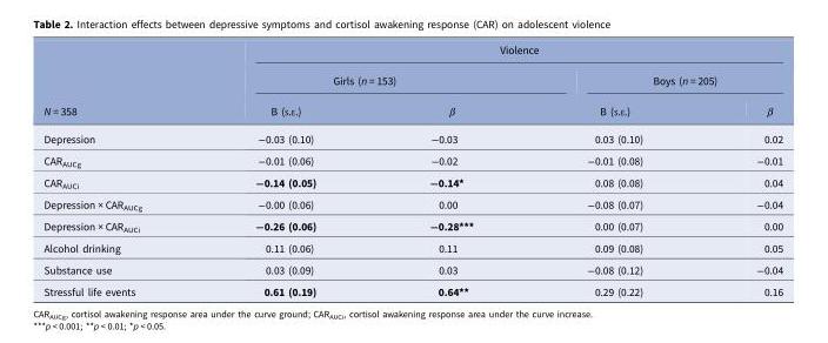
<table><thead><tr><td rowspan="3">N = 358</td><td colspan="4">Violence</td></tr><tr><td colspan="2">Girls (n = 153)</td><td colspan="2">Boys (n = 205)</td></tr><tr><td>B (S.E.)</td><td>β</td><td>B (S.E.)</td><td>β</td></tr></thead><tbody><tr><td>Depression</td><td>−0.03 (0.10)</td><td>−0.03</td><td>0.03 (0.10)</td><td>0.02</td></tr><tr><td>CAR<sub>AUCg</sub></td><td>−0.01 (0.06)</td><td>−0.02</td><td>−0.01 (0.08)</td><td>−0.01</td></tr><tr><td>CAR<sub>AUCi</sub></td><td>−0.14 (0.05)</td><td>−0.14*</td><td>0.08 (0.08)</td><td>0.04</td></tr><tr><td>Depression × CAR<sub>AUCg</sub></td><td>−0.00 (0.06)</td><td>0.00</td><td>−0.08 (0.07)</td><td>−0.04</td></tr><tr><td>Depression × CAR<sub>AUCi</sub></td><td>−0.26 (0.06)</td><td>−0.28***</td><td>0.00 (0.07)</td><td>0.00</td></tr><tr><td>Alcohol drinking</td><td>0.11 (0.06)</td><td>0.11</td><td>0.09 (0.08)</td><td>0.05</td></tr><tr><td>Substance use</td><td>0.03 (0.09)</td><td>0.03</td><td>−0.08 (0.12)</td><td>−0.04</td></tr><tr><td>Stressful life events</td><td>0.61 (0.19)</td><td>0.64**</td><td>0.29 (0.22)</td><td>0.16</td></tr></tbody></table>